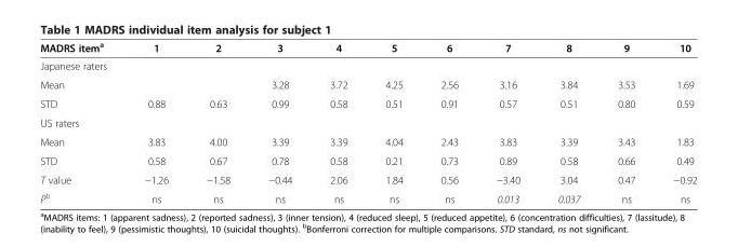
<table><thead><tr><td>MADRS item<sup>a</sup></td><td>1</td><td>2</td><td>3</td><td>4</td><td>5</td><td>6</td><td>7</td><td>8</td><td>9</td><td>10</td></tr></thead><tbody><tr><td colspan="11">Japanese raters</td></tr><tr><td>Mean</td><td></td><td></td><td>3.28</td><td>3.72</td><td>4.25</td><td>2.56</td><td>3.16</td><td>3.84</td><td>3.53</td><td>1.69</td></tr><tr><td>STD</td><td>0.88</td><td>0.63</td><td>0.99</td><td>0.58</td><td>0.51</td><td>0.91</td><td>0.57</td><td>0.51</td><td>0.80</td><td>0.59</td></tr><tr><td colspan="11">US raters</td></tr><tr><td>Mean</td><td>3.83</td><td>4.00</td><td>3.39</td><td>3.39</td><td>4.04</td><td>2.43</td><td>3.83</td><td>3.39</td><td>3.43</td><td>1.83</td></tr><tr><td>STD</td><td>0.58</td><td>0.67</td><td>0.78</td><td>0.58</td><td>0.21</td><td>0.73</td><td>0.89</td><td>0.58</td><td>0.66</td><td>0.49</td></tr><tr><td>T value</td><td>−1.26</td><td>−1.58</td><td>−0.44</td><td>2.06</td><td>1.84</td><td>0.56</td><td>−3.40</td><td>3.04</td><td>0.47</td><td>−0.92</td></tr><tr><td>P<sup>b</sup></td><td>ns</td><td>ns</td><td>ns</td><td>ns</td><td>ns</td><td>ns</td><td>0.013</td><td>0.037</td><td>ns</td><td>ns</td></tr></tbody></table>